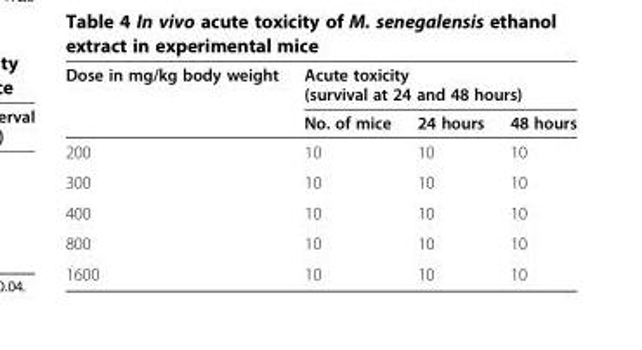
<table><thead><tr><td rowspan="2">Dose in mg/kg body weight</td><td colspan="3">Acute toxicity (survival at 24 and 48 hours)</td></tr><tr><td>No. of mice</td><td>24 hours</td><td>48 hours</td></tr></thead><tbody><tr><td>200</td><td>10</td><td>10</td><td>10</td></tr><tr><td>300</td><td>10</td><td>10</td><td>10</td></tr><tr><td>400</td><td>10</td><td>10</td><td>10</td></tr><tr><td>800</td><td>10</td><td>10</td><td>10</td></tr><tr><td>1600</td><td>10</td><td>10</td><td>10</td></tr></tbody></table>